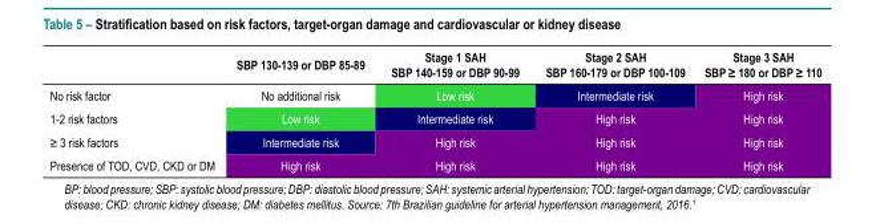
<table><thead><tr><td></td><td>SBP 130-139 or DBP 85-89</td><td>Stage 1 SAH SBP 140-159 or DBP 90-99</td><td>Stage 2 SAH SBP 160-179 or DBP 100-109</td><td>Stage 3 SAH SBP ≥ 180 or DBP ≥ 110</td></tr></thead><tbody><tr><td>No risk factor</td><td>No additional risk</td><td>Low risk</td><td>Intermediate risk</td><td>High risk</td></tr><tr><td>1-2 risk factors</td><td>Low risk</td><td>Intermediate risk</td><td>High risk</td><td>High risk</td></tr><tr><td>≥ 3 risk factors</td><td>Intermediate risk</td><td>High risk</td><td>High risk</td><td>High risk</td></tr><tr><td>Presence of TOD, CVD, CKD or DM</td><td>High risk</td><td>High risk</td><td>High risk</td><td>High risk</td></tr></tbody></table>